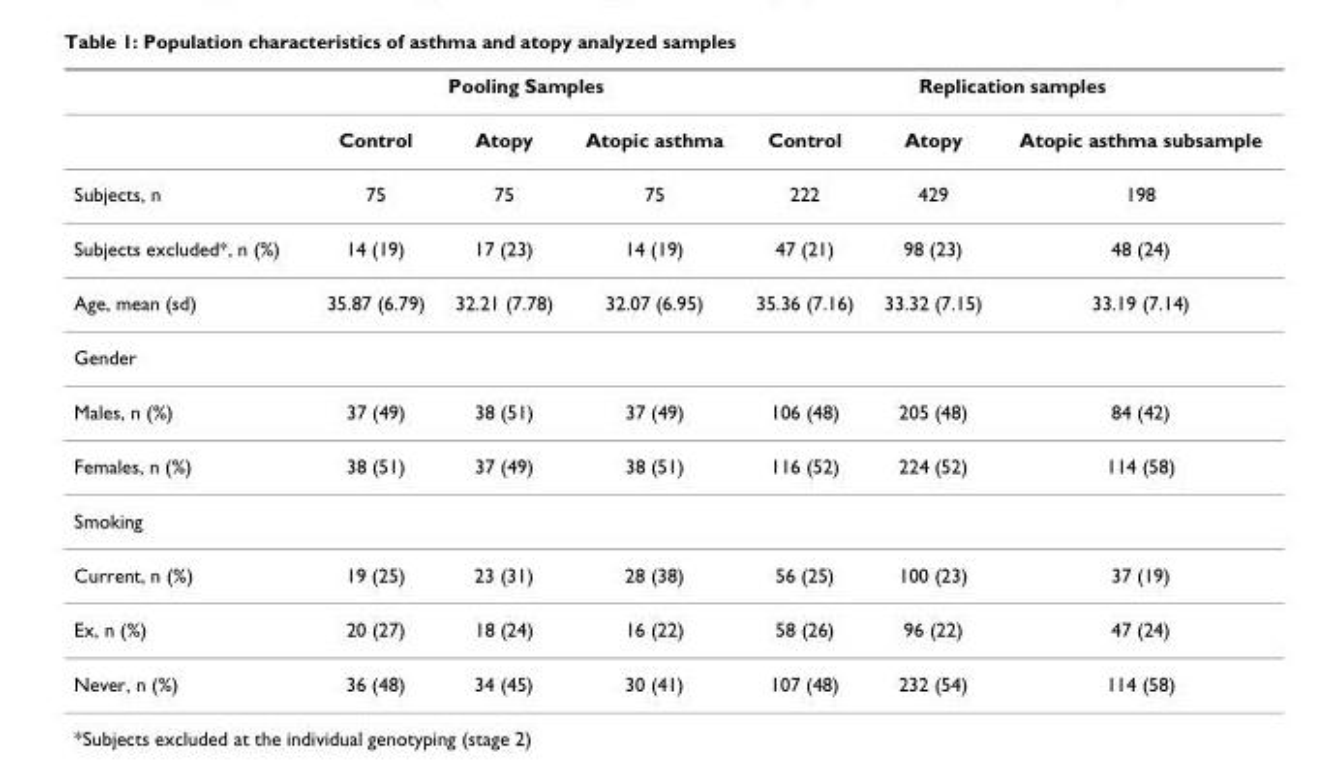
<table><thead><tr><td rowspan="2"></td><td colspan="3">Pooling Samples</td><td colspan="3">Replication samples</td></tr><tr><td>Control</td><td>Atopy</td><td>Atopic asthma</td><td>Control</td><td>Atopy</td><td>Atopic asthma subsample</td></tr></thead><tbody><tr><td>Subjects, n</td><td>75</td><td>75</td><td>75</td><td>222</td><td>429</td><td>198</td></tr><tr><td>Subjects excluded*, n (%)</td><td>14 (19)</td><td>17 (23)</td><td>14 (19)</td><td>47 (21)</td><td>98 (23)</td><td>48 (24)</td></tr><tr><td>Age, mean (sd)</td><td>35.87 (6.79)</td><td>32.21 (7.78)</td><td>32.07 (6.95)</td><td>35.36 (7.16)</td><td>33.32 (7.15)</td><td>33.19 (7.14)</td></tr><tr><td colspan="7">Gender</td></tr><tr><td>Males, n (%)</td><td>37 (49)</td><td>38 (51)</td><td>37 (49)</td><td>106 (48)</td><td>205 (48)</td><td>84 (42)</td></tr><tr><td>Females, n (%)</td><td>38 (51)</td><td>37 (49)</td><td>38 (51)</td><td>116 (52)</td><td>224 (52)</td><td>114 (58)</td></tr><tr><td colspan="7">Smoking</td></tr><tr><td>Current, n (%)</td><td>19 (25)</td><td>23 (31)</td><td>28 (38)</td><td>56 (25)</td><td>100 (23)</td><td>37 (19)</td></tr><tr><td>Ex, n (%)</td><td>20 (27)</td><td>18 (24)</td><td>16 (22)</td><td>58 (26)</td><td>96 (22)</td><td>47 (24)</td></tr><tr><td>Never, n (%)</td><td>36 (48)</td><td>34 (45)</td><td>30 (41)</td><td>107 (48)</td><td>232 (54)</td><td>114 (58)</td></tr></tbody></table>